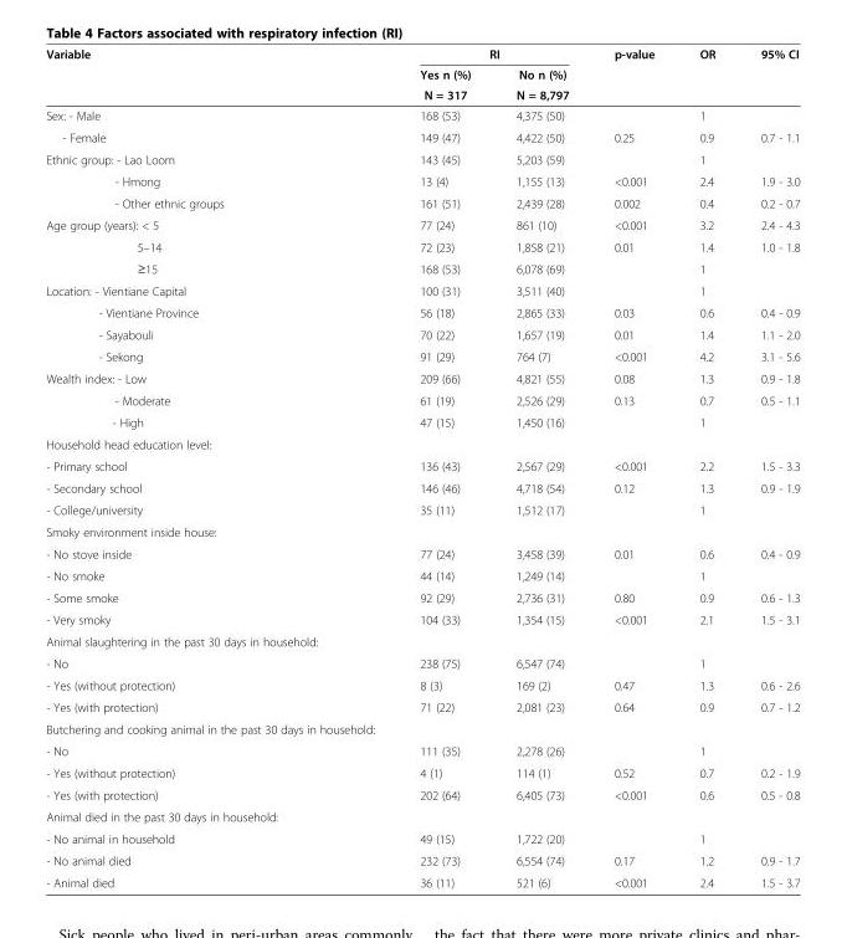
<table><thead><tr><td rowspan="3">Variable</td><td colspan="2">RI</td><td rowspan="3">p-value</td><td rowspan="3">OR</td><td rowspan="3">95% CI</td></tr><tr><td rowspan="2">Yes n (%) N = 317</td><td rowspan="2">No n (%) N = 8,797</td></tr><tr></tr></thead><tbody><tr><td>Sex: - Male</td><td>168 (53)</td><td>4,375 (50)</td><td></td><td>1</td><td></td></tr><tr><td>- Female</td><td>149 (47)</td><td>4,422 (50)</td><td>0.25</td><td>0.9</td><td>0.7 - 1.1</td></tr><tr><td>Ethnic group: - Lao Loom</td><td>143 (45)</td><td>5,203 (59)</td><td></td><td>1</td><td></td></tr><tr><td>- Hmong</td><td>13 (4)</td><td>1,155 (13)</td><td>&lt;0.001</td><td>2.4</td><td>1.9 - 3.0</td></tr><tr><td>- Other ethnic groups</td><td>161 (51)</td><td>2,439 (28)</td><td>0.002</td><td>0.4</td><td>0.2 - 0.7</td></tr><tr><td>Age group (years): &lt; 5</td><td>77 (24)</td><td>861 (10)</td><td>&lt;0.001</td><td>3.2</td><td>2.4 - 4.3</td></tr><tr><td>5–14</td><td>72 (23)</td><td>1,858 (21)</td><td>0.01</td><td>1.4</td><td>1.0 - 1.8</td></tr><tr><td>≥15</td><td>168 (53)</td><td>6,078 (69)</td><td></td><td>1</td><td></td></tr><tr><td>Location: - Vientiane Capital</td><td>100 (31)</td><td>3,511 (40)</td><td></td><td>1</td><td></td></tr><tr><td>- Vientiane Province</td><td>56 (18)</td><td>2,865 (33)</td><td>0.03</td><td>0.6</td><td>0.4 - 0.9</td></tr><tr><td>- Sayabouli</td><td>70 (22)</td><td>1,657 (19)</td><td>0.01</td><td>1.4</td><td>1.1 - 2.0</td></tr><tr><td>- Sekong</td><td>91 (29)</td><td>764 (7)</td><td>&lt;0.001</td><td>4.2</td><td>3.1 - 5.6</td></tr><tr><td>Wealth index: - Low</td><td>209 (66)</td><td>4,821 (55)</td><td>0.08</td><td>1.3</td><td>0.9 - 1.8</td></tr><tr><td>- Moderate</td><td>61 (19)</td><td>2,526 (29)</td><td>0.13</td><td>0.7</td><td>0.5 - 1.1</td></tr><tr><td>- High</td><td>47 (15)</td><td>1,450 (16)</td><td></td><td>1</td><td></td></tr><tr><td colspan="6">Household head education level:</td></tr><tr><td>- Primary school</td><td>136 (43)</td><td>2,567 (29)</td><td>&lt;0.001</td><td>2.2</td><td>1.5 - 3.3</td></tr><tr><td>- Secondary school</td><td>146 (46)</td><td>4,718 (54)</td><td>0.12</td><td>1.3</td><td>0.9 - 1.9</td></tr><tr><td>- College/university</td><td>35 (11)</td><td>1,512 (17)</td><td></td><td>1</td><td></td></tr><tr><td colspan="6">Smoky environment inside house:</td></tr><tr><td>- No stove inside</td><td>77 (24)</td><td>3,458 (39)</td><td>0.01</td><td>0.6</td><td>0.4 - 0.9</td></tr><tr><td>- No smoke</td><td>44 (14)</td><td>1,249 (14)</td><td></td><td>1</td><td></td></tr><tr><td>- Some smoke</td><td>92 (29)</td><td>2,736 (31)</td><td>0.80</td><td>0.9</td><td>0.6 - 1.3</td></tr><tr><td>- Very smoky</td><td>104 (33)</td><td>1,354 (15)</td><td>&lt;0.001</td><td>2.1</td><td>1.5 - 3.1</td></tr><tr><td colspan="6">Animal slaughtering in the past 30 days in household:</td></tr><tr><td>- No</td><td>238 (75)</td><td>6,547 (74)</td><td></td><td>1</td><td></td></tr><tr><td>- Yes (without protection)</td><td>8 (3)</td><td>169 (2)</td><td>0.47</td><td>1.3</td><td>0.6 - 2.6</td></tr><tr><td>- Yes (with protection)</td><td>71 (22)</td><td>2,081 (23)</td><td>0.64</td><td>0.9</td><td>0.7 - 1.2</td></tr><tr><td colspan="6">Butchering and cooking animal in the past 30 days in household:</td></tr><tr><td>- No</td><td>111 (35)</td><td>2,278 (26)</td><td></td><td>1</td><td></td></tr><tr><td>- Yes (without protection)</td><td>4 (1)</td><td>114 (1)</td><td>0.52</td><td>0.7</td><td>0.2 - 1.9</td></tr><tr><td>- Yes (with protection)</td><td>202 (64)</td><td>6,405 (73)</td><td>&lt;0.001</td><td>0.6</td><td>0.5 - 0.8</td></tr><tr><td colspan="6">Animal died in the past 30 days in household:</td></tr><tr><td>- No animal in household</td><td>49 (15)</td><td>1,722 (20)</td><td></td><td>1</td><td></td></tr><tr><td>- No animal died</td><td>232 (73)</td><td>6,554 (74)</td><td>0.17</td><td>1.2</td><td>0.9 - 1.7</td></tr><tr><td>- Animal died</td><td>36 (11)</td><td>521 (6)</td><td>&lt;0.001</td><td>2.4</td><td>1.5 - 3.7</td></tr></tbody></table>